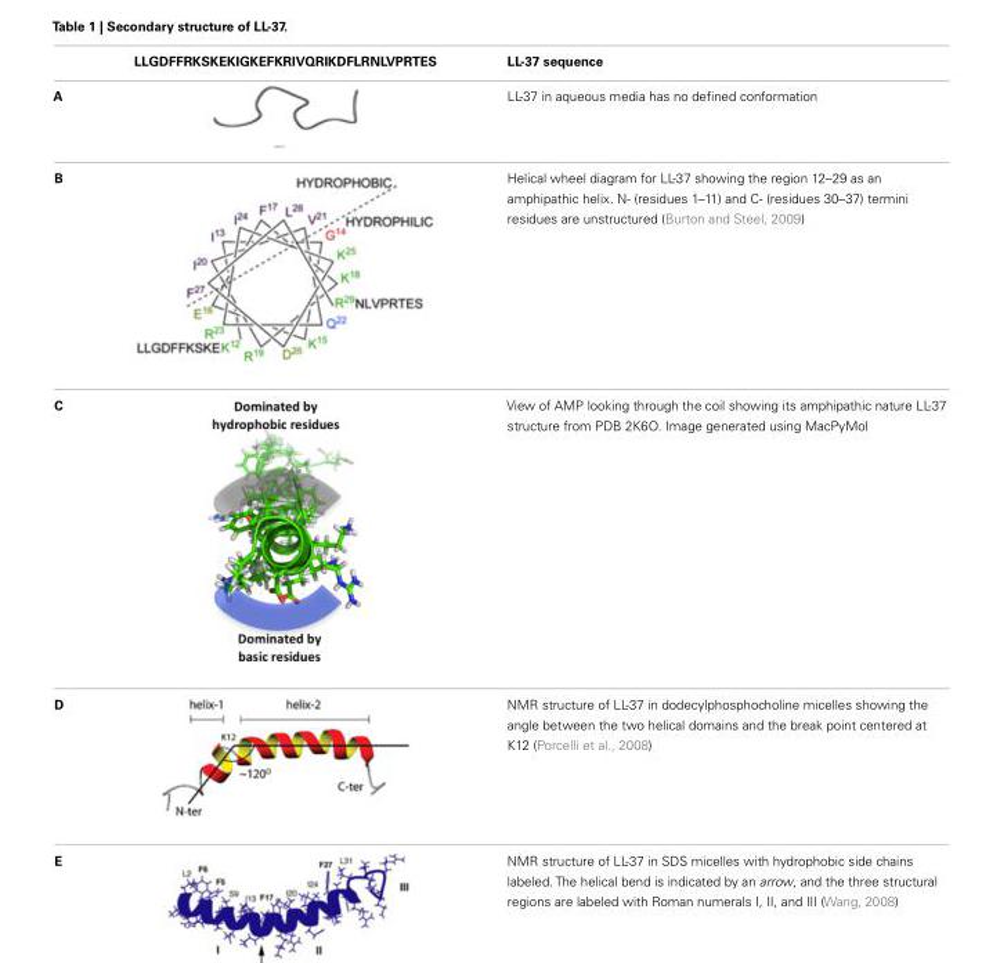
<table><thead><tr><td></td><td>LLGDFFRKSKEKIGKEFKRIVQRIKDFLRNLVPRTES</td><td>LL-37 sequence</td></tr></thead><tbody><tr><td>A</td><td></td><td>LL-37 in aqueous media has no defined conformation</td></tr><tr><td>B</td><td></td><td>Helical wheel diagram for LL-37 showing the region 12–29 as an amphipathic helix. N- (residues 1–11) and C- (residues 30–37) termini residues are unstructured (Burton and Steel, 2009)</td></tr><tr><td>C</td><td></td><td>View of AMP looking through the coil showing its amphipathic nature LL-37 structure from PDB 2K6O. Image generated using MacPyMol</td></tr><tr><td>D</td><td></td><td>NMR structure of LL-37 in dodecylphosphocholine micelles showing the angle between the two helical domains and the break point centered at K12 (Porcelli et al., 2008)</td></tr><tr><td>E</td><td></td><td>NMR structure of LL-37 in SDS micelles with hydrophobic side chains labeled. The helical bend is indicated by an arrow, and the three structural regions are labeled with Roman numerals I, II, and III (Wang, 2008)</td></tr></tbody></table>